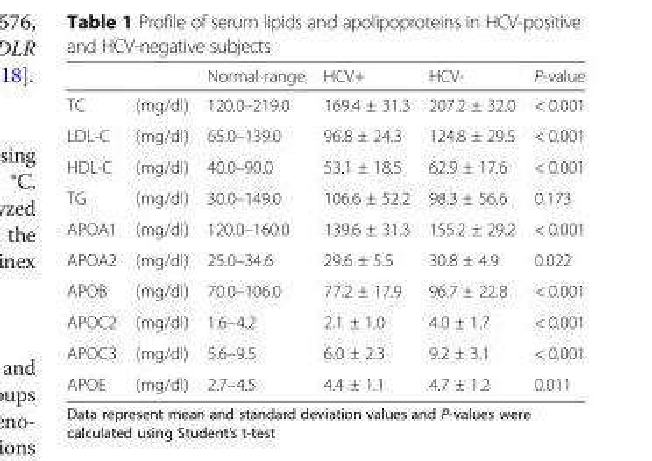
<table><thead><tr><td></td><td></td><td>Normal range</td><td>HCV+</td><td>HCV-</td><td>P-value</td></tr></thead><tbody><tr><td>TC</td><td>(mg/dl)</td><td>120.0–219.0</td><td>169.4 ± 31.3</td><td>207.2 ± 32.0</td><td>&lt; 0.001</td></tr><tr><td>LDL-C</td><td>(mg/dl)</td><td>65.0–139.0</td><td>96.8 ± 24.3</td><td>124.8 ± 29.5</td><td>&lt; 0.001</td></tr><tr><td>HDL-C</td><td>(mg/dl)</td><td>40.0–90.0</td><td>53.1 ± 18.5</td><td>62.9 ± 17.6</td><td>&lt; 0.001</td></tr><tr><td>TG</td><td>(mg/dl)</td><td>30.0–149.0</td><td>106.6 ± 52.2</td><td>98.3 ± 56.6</td><td>0.173</td></tr><tr><td>APOA1</td><td>(mg/dl)</td><td>120.0–160.0</td><td>139.6 ± 31.3</td><td>155.2 ± 29.2</td><td>&lt; 0.001</td></tr><tr><td>APOA2</td><td>(mg/dl)</td><td>25.0–34.6</td><td>29.6 ± 5.5</td><td>30.8 ± 4.9</td><td>0.022</td></tr><tr><td>APOB</td><td>(mg/dl)</td><td>70.0–106.0</td><td>77.2 ± 17.9</td><td>96.7 ± 22.8</td><td>&lt; 0.001</td></tr><tr><td>APOC2</td><td>(mg/dl)</td><td>1.6–4.2</td><td>2.1 ± 1.0</td><td>4.0 ± 1.7</td><td>&lt; 0.001</td></tr><tr><td>APOC3</td><td>(mg/dl)</td><td>5.6–9.5</td><td>6.0 ± 2.3</td><td>9.2 ± 3.1</td><td>&lt; 0.001</td></tr><tr><td>APOE</td><td>(mg/dl)</td><td>2.7–4.5</td><td>4.4 ± 1.1</td><td>4.7 ± 1.2</td><td>0.011</td></tr></tbody></table>